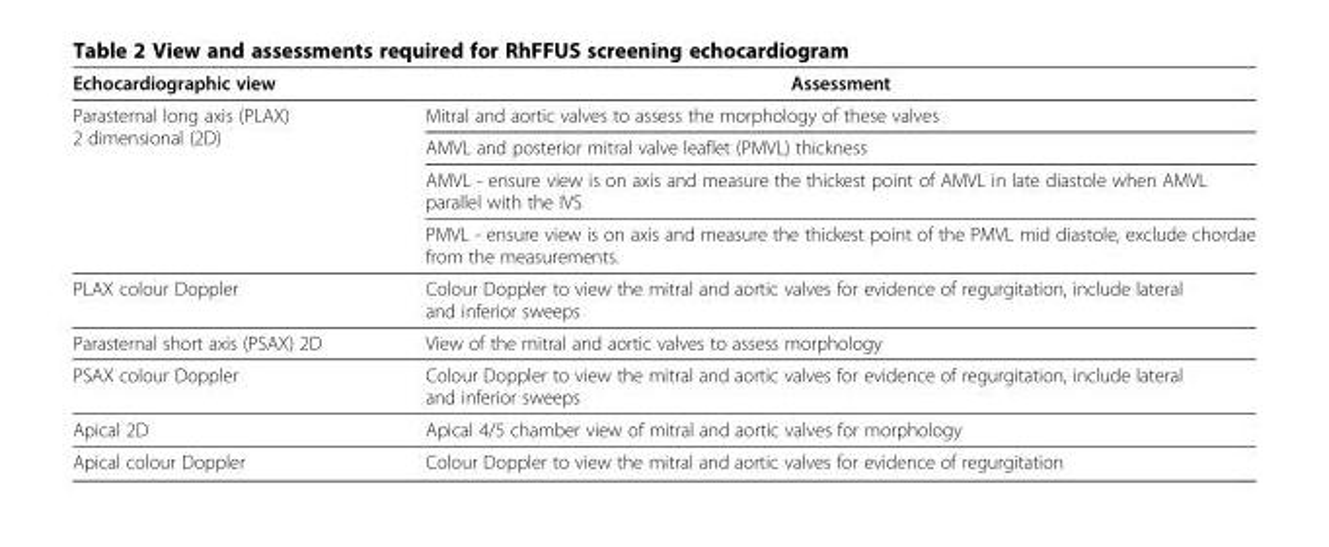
<table><thead><tr><td>Echocardiographic view</td><td>Assessment</td></tr></thead><tbody><tr><td rowspan="4">Parasternal long axis (PLAX) 2 dimensional (2D)</td><td>Mitral and aortic valves to assess the morphology of these valves</td></tr><tr><td>AMVL and posterior mitral valve leaflet (PMVL) thickness</td></tr><tr><td>AMVL - ensure view is on axis and measure the thickest point of AMVL in late diastole when AMVL parallel with the IVS</td></tr><tr><td>PMVL - ensure view is on axis and measure the thickest point of the PMVL mid diastole, exclude chordae from the measurements.</td></tr><tr><td>PLAX colour Doppler</td><td>Colour Doppler to view the mitral and aortic valves for evidence of regurgitation, include lateral and inferior sweeps</td></tr><tr><td>Parasternal short axis (PSAX) 2D</td><td>View of the mitral and aortic valves to assess morphology</td></tr><tr><td>PSAX colour Doppler</td><td>Colour Doppler to view the mitral and aortic valves for evidence of regurgitation, include lateral and inferior sweeps</td></tr><tr><td>Apical 2D</td><td>Apical 4/5 chamber view of mitral and aortic valves for morphology</td></tr><tr><td>Apical colour Doppler</td><td>Colour Doppler to view the mitral and aortic valves for evidence of regurgitation</td></tr></tbody></table>